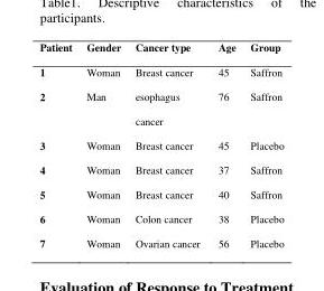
<table><thead><tr><td>Patient</td><td>Gender</td><td>Cancer type</td><td>Age</td><td>Group</td></tr></thead><tbody><tr><td>1</td><td>Woman</td><td>Breast cancer</td><td>45</td><td>Saffron</td></tr><tr><td>2</td><td>Man</td><td>esophagus cancer</td><td>76</td><td>Saffron</td></tr><tr><td>3</td><td>Woman</td><td>Breast cancer</td><td>45</td><td>Placebo</td></tr><tr><td>4</td><td>Woman</td><td>Breast cancer</td><td>37</td><td>Saffron</td></tr><tr><td>5</td><td>Woman</td><td>Breast cancer</td><td>40</td><td>Saffron</td></tr><tr><td>6</td><td>Woman</td><td>Colon cancer</td><td>38</td><td>Placebo</td></tr><tr><td>7</td><td>Woman</td><td>Ovarian cancer</td><td>56</td><td>Placebo</td></tr></tbody></table>